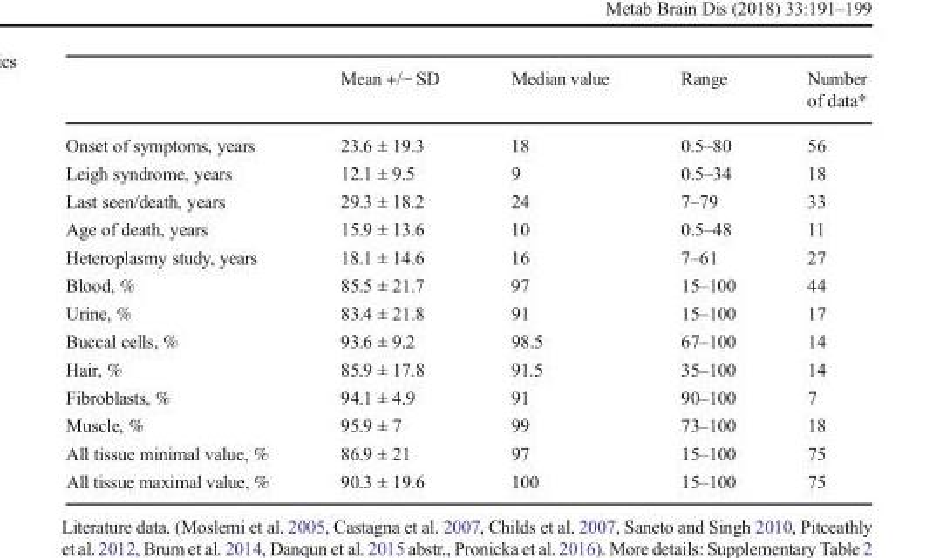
<table><thead><tr><td></td><td>Mean +/− SD</td><td>Median value</td><td>Range</td><td>Number of data*</td></tr></thead><tbody><tr><td>Onset of symptoms, years</td><td>23.6 ± 19.3</td><td>18</td><td>0.5–80</td><td>56</td></tr><tr><td>Leigh syndrome, years</td><td>12.1 ± 9.5</td><td>9</td><td>0.5–34</td><td>18</td></tr><tr><td>Last seen/death, years</td><td>29.3 ± 18.2</td><td>24</td><td>7–79</td><td>33</td></tr><tr><td>Age of death, years</td><td>15.9 ± 13.6</td><td>10</td><td>0.5–48</td><td>11</td></tr><tr><td>Heteroplasmy study, years</td><td>18.1 ± 14.6</td><td>16</td><td>7–61</td><td>27</td></tr><tr><td>Blood, %</td><td>85.5 ± 21.7</td><td>97</td><td>15–100</td><td>44</td></tr><tr><td>Urine, %</td><td>83.4 ± 21.8</td><td>91</td><td>15–100</td><td>17</td></tr><tr><td>Buccal cells, %</td><td>93.6 ± 9.2</td><td>98.5</td><td>67–100</td><td>14</td></tr><tr><td>Hair, %</td><td>85.9 ± 17.8</td><td>91.5</td><td>35–100</td><td>14</td></tr><tr><td>Fibroblasts, %</td><td>94.1 ± 4.9</td><td>91</td><td>90–100</td><td>7</td></tr><tr><td>Muscle, %</td><td>95.9 ± 7</td><td>99</td><td>73–100</td><td>18</td></tr><tr><td>All tissue minimal value, %</td><td>86.9 ± 21</td><td>97</td><td>15–100</td><td>75</td></tr><tr><td>All tissue maximal value, %</td><td>90.3 ± 19.6</td><td>100</td><td>15–100</td><td>75</td></tr></tbody></table>